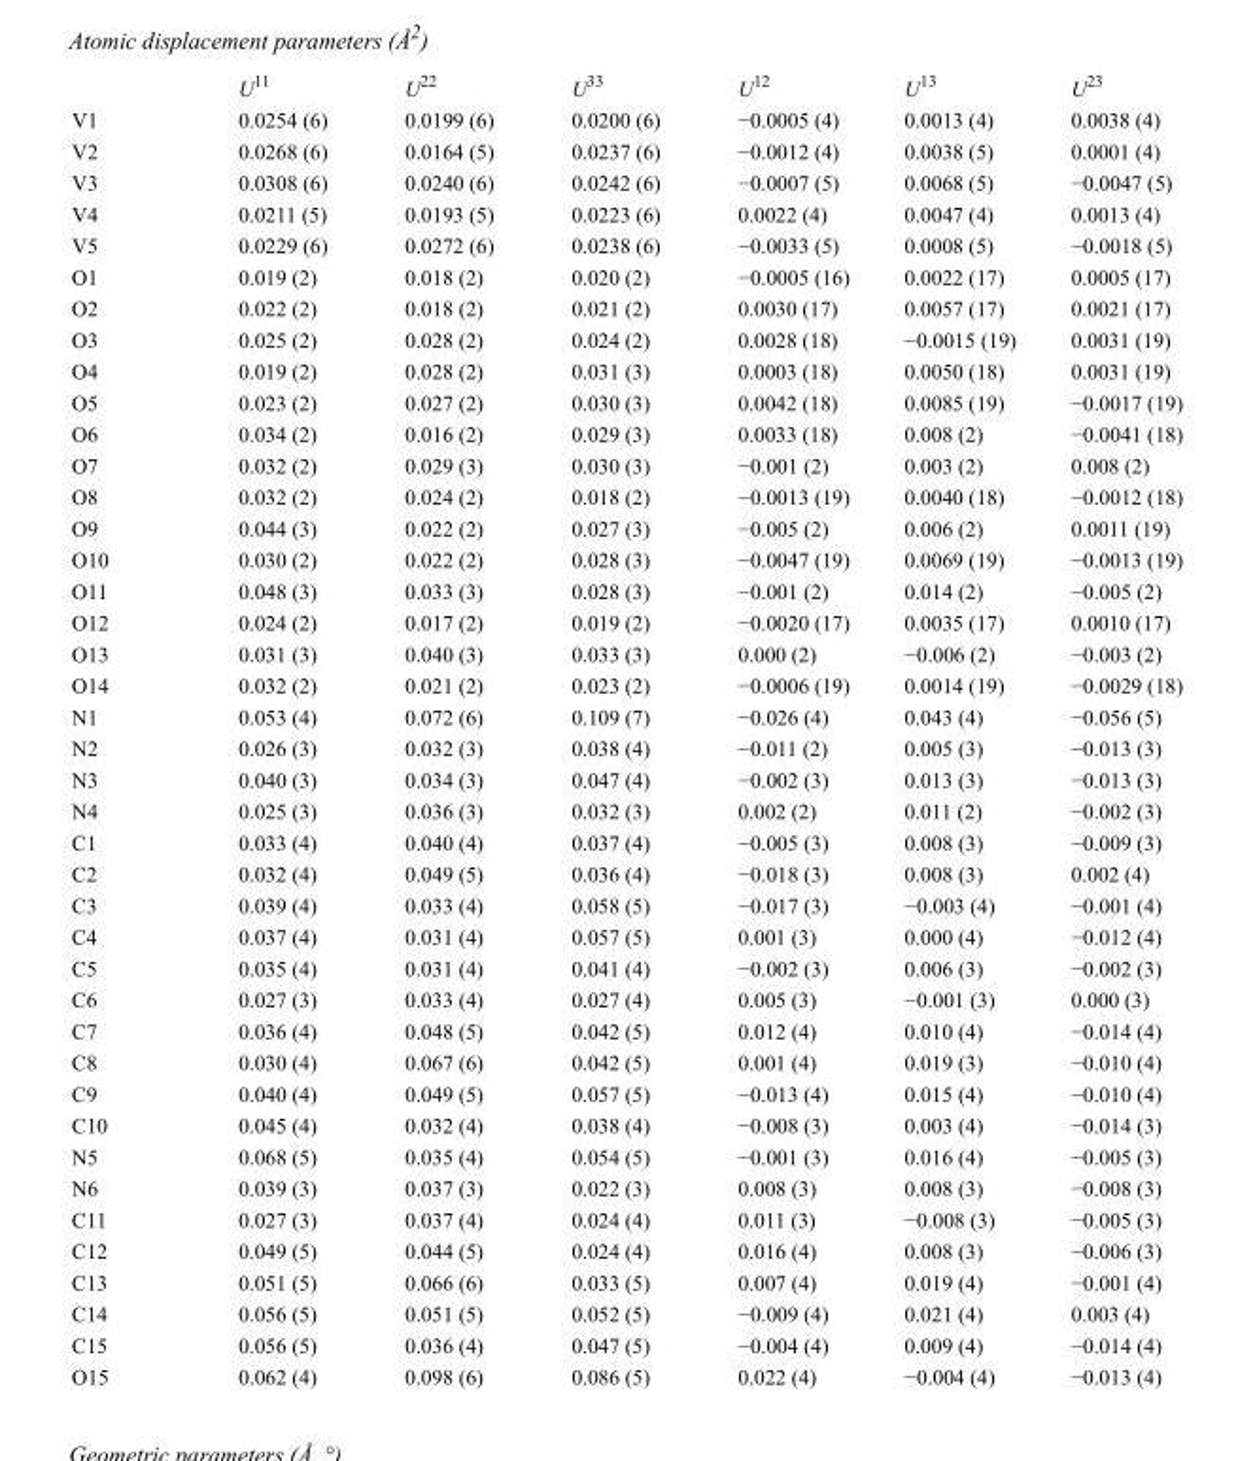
<table><thead><tr><td></td><td>U<sup>11</sup></td><td>U<sup>22</sup></td><td>U<sup>33</sup></td><td>U<sup>12</sup></td><td>U<sup>13</sup></td><td>U<sup>23</sup></td></tr></thead><tbody><tr><td>V1</td><td>0.0254 (6)</td><td>0.0199 (6)</td><td>0.0200 (6)</td><td>−0.0005 (4)</td><td>0.0013 (4)</td><td>0.0038 (4)</td></tr><tr><td>V2</td><td>0.0268 (6)</td><td>0.0164 (5)</td><td>0.0237 (6)</td><td>−0.0012 (4)</td><td>0.0038 (5)</td><td>0.0001 (4)</td></tr><tr><td>V3</td><td>0.0308 (6)</td><td>0.0240 (6)</td><td>0.0242 (6)</td><td>−0.0007 (5)</td><td>0.0068 (5)</td><td>−0.0047 (5)</td></tr><tr><td>V4</td><td>0.0211 (5)</td><td>0.0193 (5)</td><td>0.0223 (6)</td><td>0.0022 (4)</td><td>0.0047 (4)</td><td>0.0013 (4)</td></tr><tr><td>V5</td><td>0.0229 (6)</td><td>0.0272 (6)</td><td>0.0238 (6)</td><td>−0.0033 (5)</td><td>0.0008 (5)</td><td>−0.0018 (5)</td></tr><tr><td>O1</td><td>0.019 (2)</td><td>0.018 (2)</td><td>0.020 (2)</td><td>−0.0005 (16)</td><td>0.0022 (17)</td><td>0.0005 (17)</td></tr><tr><td>O2</td><td>0.022 (2)</td><td>0.018 (2)</td><td>0.021 (2)</td><td>0.0030 (17)</td><td>0.0057 (17)</td><td>0.0021 (17)</td></tr><tr><td>O3</td><td>0.025 (2)</td><td>0.028 (2)</td><td>0.024 (2)</td><td>0.0028 (18)</td><td>−0.0015 (19)</td><td>0.0031 (19)</td></tr><tr><td>O4</td><td>0.019 (2)</td><td>0.028 (2)</td><td>0.031 (3)</td><td>0.0003 (18)</td><td>0.0050 (18)</td><td>0.0031 (19)</td></tr><tr><td>O5</td><td>0.023 (2)</td><td>0.027 (2)</td><td>0.030 (3)</td><td>0.0042 (18)</td><td>0.0085 (19)</td><td>−0.0017 (19)</td></tr><tr><td>O6</td><td>0.034 (2)</td><td>0.016 (2)</td><td>0.029 (3)</td><td>0.0033 (18)</td><td>0.008 (2)</td><td>−0.0041 (18)</td></tr><tr><td>O7</td><td>0.032 (2)</td><td>0.029 (3)</td><td>0.030 (3)</td><td>−0.001 (2)</td><td>0.003 (2)</td><td>0.008 (2)</td></tr><tr><td>O8</td><td>0.032 (2)</td><td>0.024 (2)</td><td>0.018 (2)</td><td>−0.0013 (19)</td><td>0.0040 (18)</td><td>−0.0012 (18)</td></tr><tr><td>O9</td><td>0.044 (3)</td><td>0.022 (2)</td><td>0.027 (3)</td><td>−0.005 (2)</td><td>0.006 (2)</td><td>0.0011 (19)</td></tr><tr><td>O10</td><td>0.030 (2)</td><td>0.022 (2)</td><td>0.028 (3)</td><td>−0.0047 (19)</td><td>0.0069 (19)</td><td>−0.0013 (19)</td></tr><tr><td>O11</td><td>0.048 (3)</td><td>0.033 (3)</td><td>0.028 (3)</td><td>−0.001 (2)</td><td>0.014 (2)</td><td>−0.005 (2)</td></tr><tr><td>O12</td><td>0.024 (2)</td><td>0.017 (2)</td><td>0.019 (2)</td><td>−0.0020 (17)</td><td>0.0035 (17)</td><td>0.0010 (17)</td></tr><tr><td>O13</td><td>0.031 (3)</td><td>0.040 (3)</td><td>0.033 (3)</td><td>0.000 (2)</td><td>−0.006 (2)</td><td>−0.003 (2)</td></tr><tr><td>O14</td><td>0.032 (2)</td><td>0.021 (2)</td><td>0.023 (2)</td><td>−0.0006 (19)</td><td>0.0014 (19)</td><td>−0.0029 (18)</td></tr><tr><td>N1</td><td>0.053 (4)</td><td>0.072 (6)</td><td>0.109 (7)</td><td>−0.026 (4)</td><td>0.043 (4)</td><td>−0.056 (5)</td></tr><tr><td>N2</td><td>0.026 (3)</td><td>0.032 (3)</td><td>0.038 (4)</td><td>−0.011 (2)</td><td>0.005 (3)</td><td>−0.013 (3)</td></tr><tr><td>N3</td><td>0.040 (3)</td><td>0.034 (3)</td><td>0.047 (4)</td><td>−0.002 (3)</td><td>0.013 (3)</td><td>−0.013 (3)</td></tr><tr><td>N4</td><td>0.025 (3)</td><td>0.036 (3)</td><td>0.032 (3)</td><td>0.002 (2)</td><td>0.011 (2)</td><td>−0.002 (3)</td></tr><tr><td>C1</td><td>0.033 (4)</td><td>0.040 (4)</td><td>0.037 (4)</td><td>−0.005 (3)</td><td>0.008 (3)</td><td>−0.009 (3)</td></tr><tr><td>C2</td><td>0.032 (4)</td><td>0.049 (5)</td><td>0.036 (4)</td><td>−0.018 (3)</td><td>0.008 (3)</td><td>0.002 (4)</td></tr><tr><td>C3</td><td>0.039 (4)</td><td>0.033 (4)</td><td>0.058 (5)</td><td>−0.017 (3)</td><td>−0.003 (4)</td><td>−0.001 (4)</td></tr><tr><td>C4</td><td>0.037 (4)</td><td>0.031 (4)</td><td>0.057 (5)</td><td>0.001 (3)</td><td>0.000 (4)</td><td>−0.012 (4)</td></tr><tr><td>C5</td><td>0.035 (4)</td><td>0.031 (4)</td><td>0.041 (4)</td><td>−0.002 (3)</td><td>0.006 (3)</td><td>−0.002 (3)</td></tr><tr><td>C6</td><td>0.027 (3)</td><td>0.033 (4)</td><td>0.027 (4)</td><td>0.005 (3)</td><td>−0.001 (3)</td><td>0.000 (3)</td></tr><tr><td>C7</td><td>0.036 (4)</td><td>0.048 (5)</td><td>0.042 (5)</td><td>0.012 (4)</td><td>0.010 (4)</td><td>−0.014 (4)</td></tr><tr><td>C8</td><td>0.030 (4)</td><td>0.067 (6)</td><td>0.042 (5)</td><td>0.001 (4)</td><td>0.019 (3)</td><td>−0.010 (4)</td></tr><tr><td>C9</td><td>0.040 (4)</td><td>0.049 (5)</td><td>0.057 (5)</td><td>−0.013 (4)</td><td>0.015 (4)</td><td>−0.010 (4)</td></tr><tr><td>C10</td><td>0.045 (4)</td><td>0.032 (4)</td><td>0.038 (4)</td><td>−0.008 (3)</td><td>0.003 (4)</td><td>−0.014 (3)</td></tr><tr><td>N5</td><td>0.068 (5)</td><td>0.035 (4)</td><td>0.054 (5)</td><td>−0.001 (3)</td><td>0.016 (4)</td><td>−0.005 (3)</td></tr><tr><td>N6</td><td>0.039 (3)</td><td>0.037 (3)</td><td>0.022 (3)</td><td>0.008 (3)</td><td>0.008 (3)</td><td>−0.008 (3)</td></tr><tr><td>C11</td><td>0.027 (3)</td><td>0.037 (4)</td><td>0.024 (4)</td><td>0.011 (3)</td><td>−0.008 (3)</td><td>−0.005 (3)</td></tr><tr><td>C12</td><td>0.049 (5)</td><td>0.044 (5)</td><td>0.024 (4)</td><td>0.016 (4)</td><td>0.008 (3)</td><td>−0.006 (3)</td></tr><tr><td>C13</td><td>0.051 (5)</td><td>0.066 (6)</td><td>0.033 (5)</td><td>0.007 (4)</td><td>0.019 (4)</td><td>−0.001 (4)</td></tr><tr><td>C14</td><td>0.056 (5)</td><td>0.051 (5)</td><td>0.052 (5)</td><td>−0.009 (4)</td><td>0.021 (4)</td><td>0.003 (4)</td></tr><tr><td>C15</td><td>0.056 (5)</td><td>0.036 (4)</td><td>0.047 (5)</td><td>−0.004 (4)</td><td>0.009 (4)</td><td>−0.014 (4)</td></tr><tr><td>O15</td><td>0.062 (4)</td><td>0.098 (6)</td><td>0.086 (5)</td><td>0.022 (4)</td><td>−0.004 (4)</td><td>−0.013 (4)</td></tr></tbody></table>